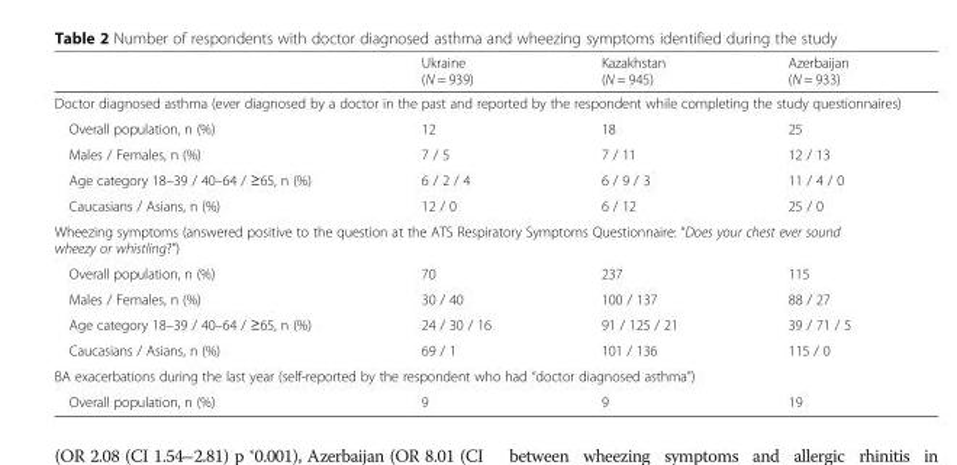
<table><thead><tr><td></td><td>Ukraine (N = 939)</td><td>Kazakhstan (N = 945)</td><td>Azerbaijan (N = 933)</td></tr></thead><tbody><tr><td colspan="4">Doctor diagnosed asthma (ever diagnosed by a doctor in the past and reported by the respondent while completing the study questionnaires)</td></tr><tr><td>Overall population, n (%)</td><td>12</td><td>18</td><td>25</td></tr><tr><td>Males / Females, n (%)</td><td>7 / 5</td><td>7 / 11</td><td>12 / 13</td></tr><tr><td>Age category 18–39 / 40–64 / ≥65, n (%)</td><td>6 / 2 / 4</td><td>6 / 9 / 3</td><td>11 / 4 / 0</td></tr><tr><td>Caucasians / Asians, n (%)</td><td>12 / 0</td><td>6 / 12</td><td>25 / 0</td></tr><tr><td colspan="4">Wheezing symptoms (answered positive to the question at the ATS Respiratory Symptoms Questionnaire: “Does your chest ever sound wheezy or whistling?”)</td></tr><tr><td>Overall population, n (%)</td><td>70</td><td>237</td><td>115</td></tr><tr><td>Males / Females, n (%)</td><td>30 / 40</td><td>100 / 137</td><td>88 / 27</td></tr><tr><td>Age category 18–39 / 40–64 / ≥65, n (%)</td><td>24 / 30 / 16</td><td>91 / 125 / 21</td><td>39 / 71 / 5</td></tr><tr><td>Caucasians / Asians, n (%)</td><td>69 / 1</td><td>101 / 136</td><td>115 / 0</td></tr><tr><td colspan="4">BA exacerbations during the last year (self-reported by the respondent who had “doctor diagnosed asthma”)</td></tr><tr><td>Overall population, n (%)</td><td>9</td><td>9</td><td>19</td></tr></tbody></table>